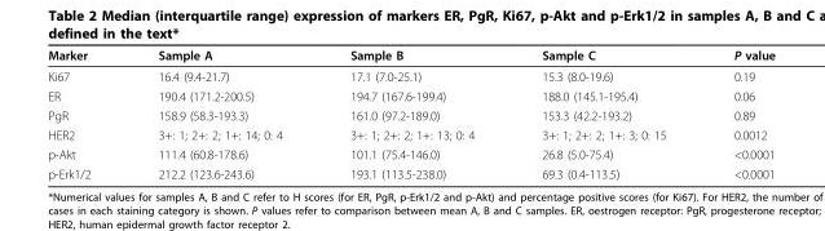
<table><thead><tr><td>Marker</td><td>Sample A</td><td>Sample B</td><td>Sample C</td><td>P value</td></tr></thead><tbody><tr><td>Ki67</td><td>16.4 (9.4-21.7)</td><td>17.1 (7.0-25.1)</td><td>15.3 (8.0-19.6)</td><td>0.19</td></tr><tr><td>ER</td><td>190.4 (171.2-200.5)</td><td>194.7 (167.6-199.4)</td><td>188.0 (145.1-195.4)</td><td>0.06</td></tr><tr><td>PgR</td><td>158.9 (58.3-193.3)</td><td>161.0 (97.2-189.0)</td><td>153.3 (42.2-193.2)</td><td>0.89</td></tr><tr><td>HER2</td><td>3+: 1; 2+: 2; 1+: 14; 0: 4</td><td>3+: 1; 2+: 2; 1+: 13; 0: 4</td><td>3+: 1; 2+: 2; 1+: 3; 0: 15</td><td>0.0012</td></tr><tr><td>p-Akt</td><td>111.4 (60.8-178.6)</td><td>101.1 (75.4-146.0)</td><td>26.8 (5.0-75.4)</td><td>&lt;0.0001</td></tr><tr><td>p-Erk1/2</td><td>212.2 (123.6-243.6)</td><td>193.1 (113.5-238.0)</td><td>69.3 (0.4-113.5)</td><td>&lt;0.0001</td></tr></tbody></table>